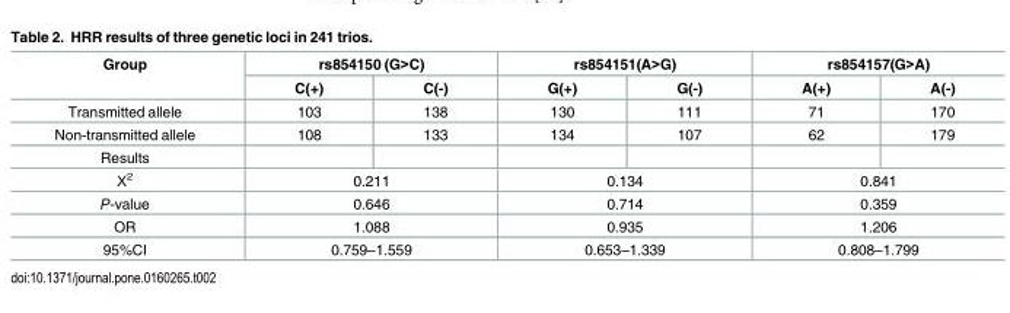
<table><thead><tr><td rowspan="2">Group</td><td colspan="2">rs854150 (G&gt;C)</td><td colspan="2">rs854151(A&gt;G)</td><td colspan="2">rs854157(G&gt;A)</td></tr><tr><td>C(+)</td><td>C(-)</td><td>G(+)</td><td>G(-)</td><td>A(+)</td><td>A(-)</td></tr></thead><tbody><tr><td>Transmitted allele</td><td>103</td><td>138</td><td>130</td><td>111</td><td>71</td><td>170</td></tr><tr><td>Non-transmitted allele</td><td>108</td><td>133</td><td>134</td><td>107</td><td>62</td><td>179</td></tr><tr><td colspan="7">Results</td></tr><tr><td>Χ<sup>2</sup></td><td colspan="2">0.211</td><td colspan="2">0.134</td><td colspan="2">0.841</td></tr><tr><td>P-value</td><td colspan="2">0.646</td><td colspan="2">0.714</td><td colspan="2">0.359</td></tr><tr><td>OR</td><td colspan="2">1.088</td><td colspan="2">0.935</td><td colspan="2">1.206</td></tr><tr><td>95%CI</td><td colspan="2">0.759–1.559</td><td colspan="2">0.653–1.339</td><td colspan="2">0.808–1.799</td></tr></tbody></table>